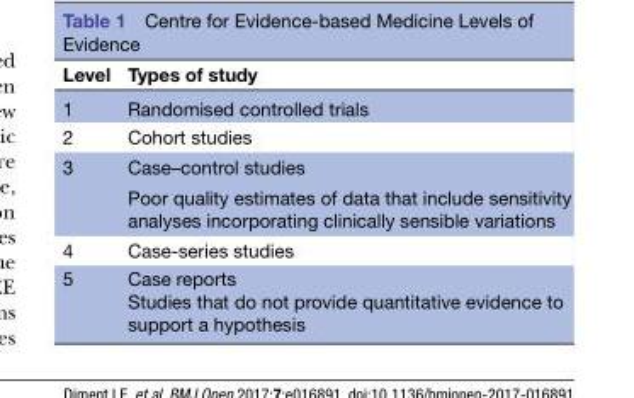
<table><thead><tr><td>Level</td><td>Types of study</td></tr></thead><tbody><tr><td>1</td><td>Randomised controlled trials</td></tr><tr><td>2</td><td>Cohort studies</td></tr><tr><td rowspan="2">3</td><td>Case–control studies</td></tr><tr><td>Poor quality estimates of data that include sensitivity analyses incorporating clinically sensible variations</td></tr><tr><td>4</td><td>Case-series studies</td></tr><tr><td>5</td><td>Case reports Studies that do not provide quantitative evidence to support a hypothesis</td></tr></tbody></table>